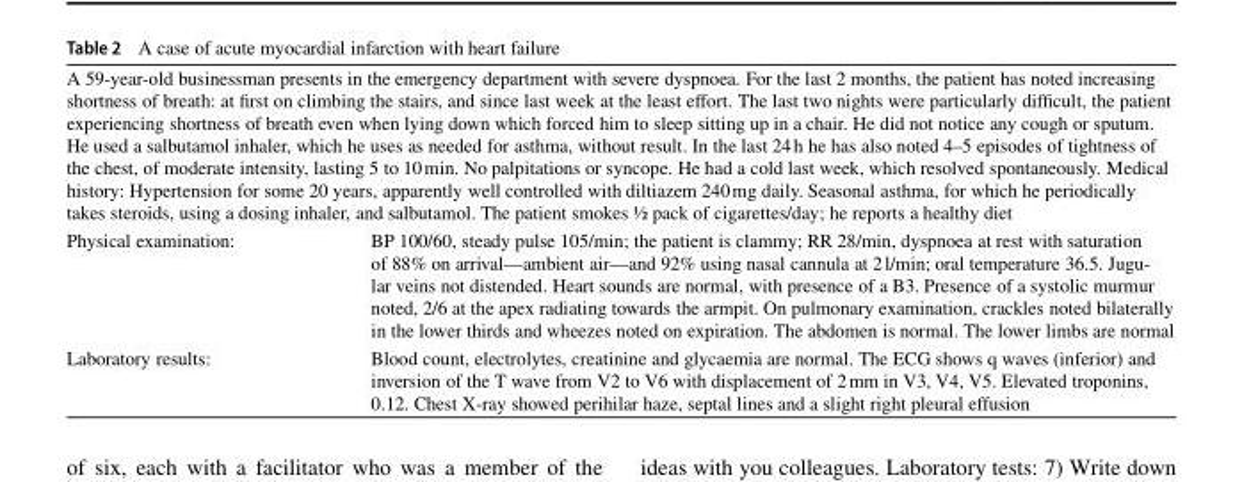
<table><tbody><tr><td colspan="2">A 59-year-old businessman presents in the emergency department with severe dyspnoea. For the last 2 months, the patient has noted increasing shortness of breath: at first on climbing the stairs, and since last week at the least effort. The last two nights were particularly difficult, the patient experiencing shortness of breath even when lying down which forced him to sleep sitting up in a chair. He did not notice any cough or sputum. He used a salbutamol inhaler, which he uses as needed for asthma, without result. In the last 24h he has also noted 4–5 episodes of tightness of the chest, of moderate intensity, lasting 5 to 10min. No palpitations or syncope. He had a cold last week, which resolved spontaneously. Medical history: Hypertension for some 20 years, apparently well controlled with diltiazem 240mg daily. Seasonal asthma, for which he periodically takes steroids, using a dosing inhaler, and salbutamol. The patient smokes ½ pack of cigarettes/day; he reports a healthy diet</td></tr><tr><td>Physical examination:</td><td>BP 100/60, steady pulse 105/min; the patient is clammy; RR 28/min, dyspnoea at rest with saturation of 88% on arrival—ambient air—and 92% using nasal cannula at 2l/min; oral temperature 36.5. Jugu- lar veins not distended. Heart sounds are normal, with presence of a B3. Presence of a systolic murmur noted, 2/6 at the apex radiating towards the armpit. On pulmonary examination, crackles noted bilaterally in the lower thirds and wheezes noted on expiration. The abdomen is normal. The lower limbs are normal</td></tr><tr><td>Laboratory results:</td><td>Blood count, electrolytes, creatinine and glycaemia are normal. The ECG shows q waves (inferior) and inversion of the T wave from V2 to V6 with displacement of 2mm in V3, V4, V5. Elevated troponins, 0.12. Chest X-ray showed perihilar haze, septal lines and a slight right pleural effusion</td></tr></tbody></table>